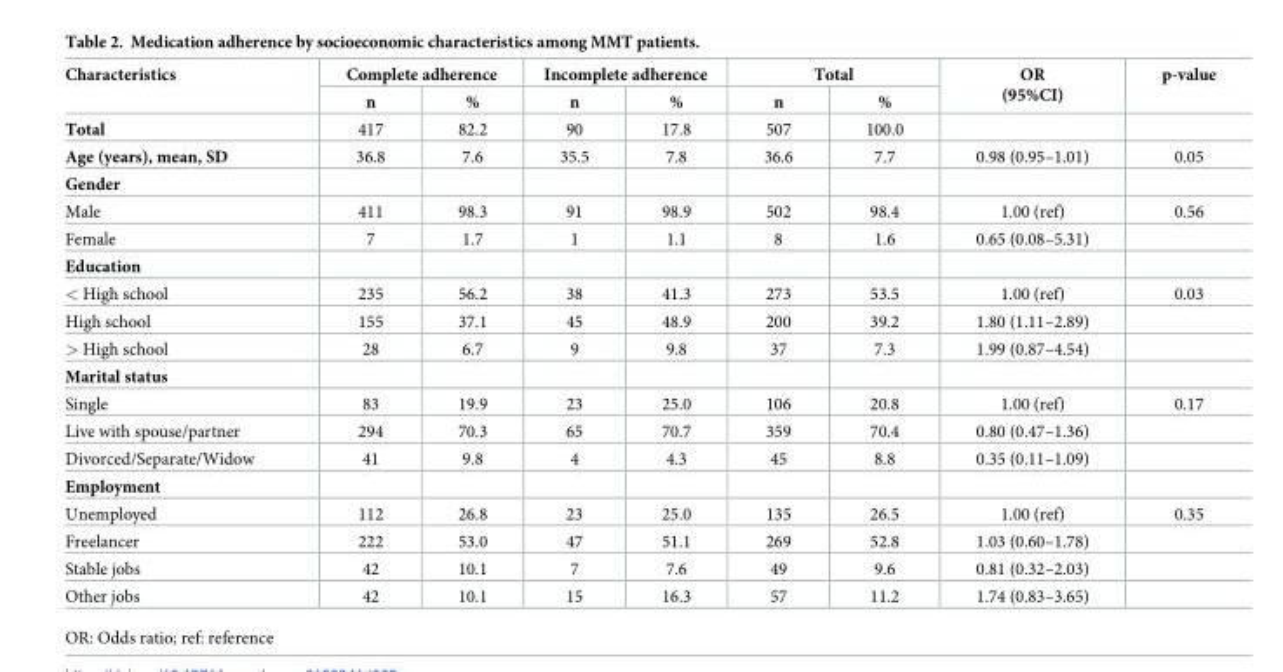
<table><thead><tr><td rowspan="2">Characteristics</td><td colspan="2">Complete adherence</td><td colspan="2">Incomplete adherence</td><td colspan="2">Total</td><td rowspan="2">OR (95%CI)</td><td rowspan="2">p-value</td></tr><tr><td>n</td><td>%</td><td>n</td><td>%</td><td>n</td><td>%</td></tr></thead><tbody><tr><td>Total</td><td>417</td><td>82.2</td><td>90</td><td>17.8</td><td>507</td><td>100.0</td><td></td><td></td></tr><tr><td>Age (years), mean, SD</td><td>36.8</td><td>7.6</td><td>35.5</td><td>7.8</td><td>36.6</td><td>7.7</td><td>0.98 (0.95–1.01)</td><td>0.05</td></tr><tr><td colspan="9">Gender</td></tr><tr><td>Male</td><td>411</td><td>98.3</td><td>91</td><td>98.9</td><td>502</td><td>98.4</td><td>1.00 (ref)</td><td>0.56</td></tr><tr><td>Female</td><td>7</td><td>1.7</td><td>1</td><td>1.1</td><td>8</td><td>1.6</td><td>0.65 (0.08–5.31)</td><td></td></tr><tr><td colspan="9">Education</td></tr><tr><td>&lt; High school</td><td>235</td><td>56.2</td><td>38</td><td>41.3</td><td>273</td><td>53.5</td><td>1.00 (ref)</td><td>0.03</td></tr><tr><td>High school</td><td>155</td><td>37.1</td><td>45</td><td>48.9</td><td>200</td><td>39.2</td><td>1.80 (1.11–2.89)</td><td></td></tr><tr><td>&gt; High school</td><td>28</td><td>6.7</td><td>9</td><td>9.8</td><td>37</td><td>7.3</td><td>1.99 (0.87–4.54)</td><td></td></tr><tr><td colspan="9">Marital status</td></tr><tr><td>Single</td><td>83</td><td>19.9</td><td>23</td><td>25.0</td><td>106</td><td>20.8</td><td>1.00 (ref)</td><td>0.17</td></tr><tr><td>Live with spouse/partner</td><td>294</td><td>70.3</td><td>65</td><td>70.7</td><td>359</td><td>70.4</td><td>0.80 (0.47–1.36)</td><td></td></tr><tr><td>Divorced/Separate/Widow</td><td>41</td><td>9.8</td><td>4</td><td>4.3</td><td>45</td><td>8.8</td><td>0.35 (0.11–1.09)</td><td></td></tr><tr><td colspan="9">Employment</td></tr><tr><td>Unemployed</td><td>112</td><td>26.8</td><td>23</td><td>25.0</td><td>135</td><td>26.5</td><td>1.00 (ref)</td><td>0.35</td></tr><tr><td>Freelancer</td><td>222</td><td>53.0</td><td>47</td><td>51.1</td><td>269</td><td>52.8</td><td>1.03 (0.60–1.78)</td><td></td></tr><tr><td>Stable jobs</td><td>42</td><td>10.1</td><td>7</td><td>7.6</td><td>49</td><td>9.6</td><td>0.81 (0.32–2.03)</td><td></td></tr><tr><td>Other jobs</td><td>42</td><td>10.1</td><td>15</td><td>16.3</td><td>57</td><td>11.2</td><td>1.74 (0.83–3.65)</td><td></td></tr></tbody></table>